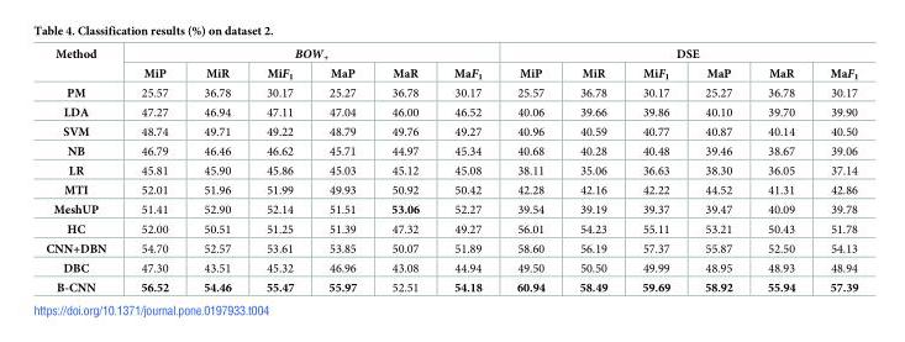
<table><thead><tr><td rowspan="2">Method</td><td colspan="6">BOW<sub>+</sub></td><td colspan="6">DSE</td></tr><tr><td>MiP</td><td>MiR</td><td>MiF<sub>1</sub></td><td>MaP</td><td>MaR</td><td>MaF<sub>1</sub></td><td>MiP</td><td>MiR</td><td>MiF<sub>1</sub></td><td>MaP</td><td>MaR</td><td>MaF<sub>1</sub></td></tr></thead><tbody><tr><td>PM</td><td>25.57</td><td>36.78</td><td>30.17</td><td>25.27</td><td>36.78</td><td>30.17</td><td>25.57</td><td>36.78</td><td>30.17</td><td>25.27</td><td>36.78</td><td>30.17</td></tr><tr><td>LDA</td><td>47.27</td><td>46.94</td><td>47.11</td><td>47.04</td><td>46.00</td><td>46.52</td><td>40.06</td><td>39.66</td><td>39.86</td><td>40.10</td><td>39.70</td><td>39.90</td></tr><tr><td>SVM</td><td>48.74</td><td>49.71</td><td>49.22</td><td>48.79</td><td>49.76</td><td>49.27</td><td>40.96</td><td>40.59</td><td>40.77</td><td>40.87</td><td>40.14</td><td>40.50</td></tr><tr><td>NB</td><td>46.79</td><td>46.46</td><td>46.62</td><td>45.71</td><td>44.97</td><td>45.34</td><td>40.68</td><td>40.28</td><td>40.48</td><td>39.46</td><td>38.67</td><td>39.06</td></tr><tr><td>LR</td><td>45.81</td><td>45.90</td><td>45.86</td><td>45.03</td><td>45.12</td><td>45.08</td><td>38.11</td><td>35.06</td><td>36.63</td><td>38.30</td><td>36.05</td><td>37.14</td></tr><tr><td>MTI</td><td>52.01</td><td>51.96</td><td>51.99</td><td>49.93</td><td>50.92</td><td>50.42</td><td>42.28</td><td>42.16</td><td>42.22</td><td>44.52</td><td>41.31</td><td>42.86</td></tr><tr><td>MeshUP</td><td>51.41</td><td>52.90</td><td>52.14</td><td>51.51</td><td>53.06</td><td>52.27</td><td>39.54</td><td>39.19</td><td>39.37</td><td>39.47</td><td>40.09</td><td>39.78</td></tr><tr><td>HC</td><td>52.00</td><td>50.51</td><td>51.25</td><td>51.39</td><td>47.32</td><td>49.27</td><td>56.01</td><td>54.23</td><td>55.11</td><td>53.21</td><td>50.43</td><td>51.78</td></tr><tr><td>CNN+DBN</td><td>54.70</td><td>52.57</td><td>53.61</td><td>53.85</td><td>50.07</td><td>51.89</td><td>58.60</td><td>56.19</td><td>57.37</td><td>55.87</td><td>52.50</td><td>54.13</td></tr><tr><td>DBC</td><td>47.30</td><td>43.51</td><td>45.32</td><td>46.96</td><td>43.08</td><td>44.94</td><td>49.50</td><td>50.50</td><td>49.99</td><td>48.95</td><td>48.93</td><td>48.94</td></tr><tr><td>B-CNN</td><td>56.52</td><td>54.46</td><td>55.47</td><td>55.97</td><td>52.51</td><td>54.18</td><td>60.94</td><td>58.49</td><td>59.69</td><td>58.92</td><td>55.94</td><td>57.39</td></tr></tbody></table>